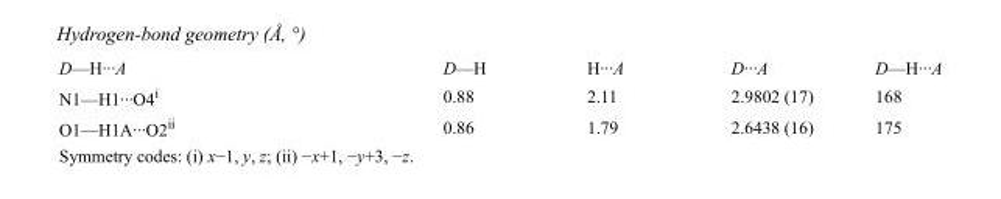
<table><tbody><tr><td>D—H···A</td><td>D—H</td><td>H···A</td><td>D···A</td><td>D—H···A</td></tr><tr><td>N1—H1···O4<sup>i</sup></td><td>0.88</td><td>2.11</td><td>2.9802 (17)</td><td>168</td></tr><tr><td>O1—H1A···O2<sup>ii</sup></td><td>0.86</td><td>1.79</td><td>2.6438 (16)</td><td>175</td></tr></tbody></table>